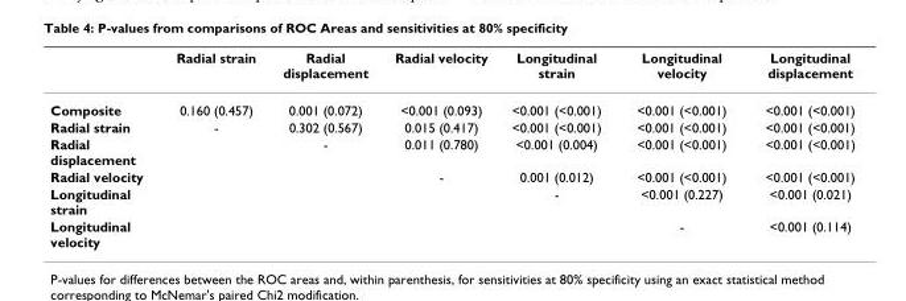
<table><thead><tr><td></td><td>Radial strain</td><td>Radial displacement</td><td>Radial velocity</td><td>Longitudinal strain</td><td>Longitudinal velocity</td><td>Longitudinal displacement</td></tr></thead><tbody><tr><td>Composite</td><td>0.160 (0.457)</td><td>0.001 (0.072)</td><td>&lt;0.001 (0.093)</td><td>&lt;0.001 (&lt;0.001)</td><td>&lt;0.001 (&lt;0.001)</td><td>&lt;0.001 (&lt;0.001)</td></tr><tr><td>Radial strain</td><td>-</td><td>0.302 (0.567)</td><td>0.015 (0.417)</td><td>&lt;0.001 (&lt;0.001)</td><td>&lt;0.001 (&lt;0.001)</td><td>&lt;0.001 (&lt;0.001)</td></tr><tr><td>Radial displacement</td><td></td><td>-</td><td>0.011 (0.780)</td><td>&lt;0.001 (0.004)</td><td>&lt;0.001 (&lt;0.001)</td><td>&lt;0.001 (&lt;0.001)</td></tr><tr><td>Radial velocity</td><td></td><td></td><td>-</td><td>0.001 (0.012)</td><td>&lt;0.001 (&lt;0.001)</td><td>&lt;0.001 (&lt;0.001)</td></tr><tr><td>Longitudinal strain</td><td></td><td></td><td></td><td>-</td><td>&lt;0.001 (0.227)</td><td>&lt;0.001 (0.021)</td></tr><tr><td>Longitudinal velocity</td><td></td><td></td><td></td><td></td><td>-</td><td>&lt;0.001 (0.114)</td></tr></tbody></table>